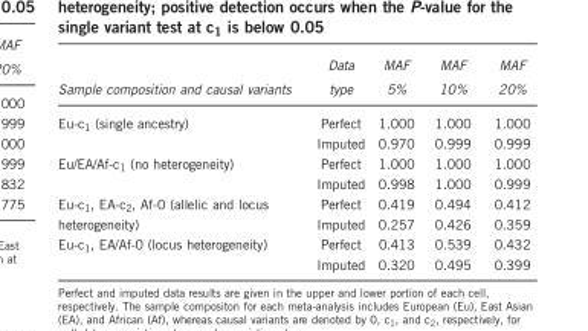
<table><thead><tr><td>Sample composition and causal variants</td><td>Data type</td><td>MAF 5%</td><td>MAF 10%</td><td>MAF 20%</td></tr></thead><tbody><tr><td rowspan="2">Eu-c<sub>1</sub> (single ancestry)</td><td>Perfect</td><td>1.000</td><td>1.000</td><td>1.000</td></tr><tr><td>Imputed</td><td>0.970</td><td>0.999</td><td>0.999</td></tr><tr><td rowspan="2">Eu/EA/Af-c<sub>1</sub> (no heterogeneity)</td><td>Perfect</td><td>1.000</td><td>1.000</td><td>1.000</td></tr><tr><td>Imputed</td><td>0.998</td><td>1.000</td><td>0.999</td></tr><tr><td>Eu-c<sub>1</sub>, EA-c<sub>2</sub>, Af-0 (allelic and locus heterogeneity)</td><td>Perfect Imputed</td><td>0.419 0.257</td><td>0.494 0.426</td><td>0.412 0.359</td></tr><tr><td rowspan="2">Eu-c<sub>1</sub>, EA/Af-0 (locus heterogeneity)</td><td>Perfect</td><td>0.413</td><td>0.539</td><td>0.432</td></tr><tr><td>Imputed</td><td>0.320</td><td>0.495</td><td>0.399</td></tr></tbody></table>